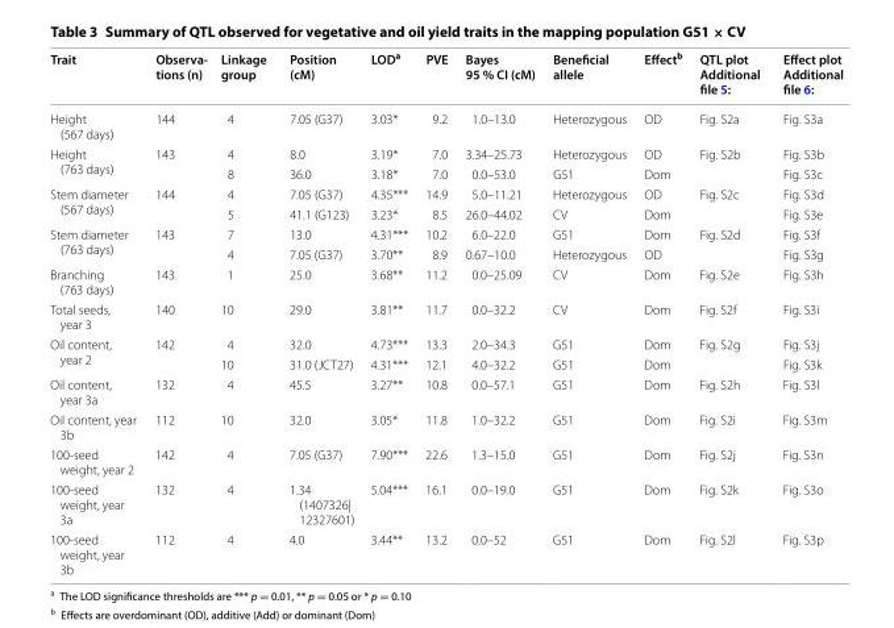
<table><thead><tr><td>Trait</td><td>Observa- tions (n)</td><td>Linkage group</td><td>Position (cM)</td><td>LOD<sup>a</sup></td><td>PVE</td><td>Bayes 95 % CI (cM)</td><td>Beneficial allele</td><td>Effect<sup>b</sup></td><td>QTL plot Additional file 5:</td><td>Effect plot Additional file 6:</td></tr></thead><tbody><tr><td>Height (567 days)</td><td>144</td><td>4</td><td>7.05 (G37)</td><td>3.03*</td><td>9.2</td><td>1.0–13.0</td><td>Heterozygous</td><td>OD</td><td>Fig. S2a</td><td>Fig. S3a</td></tr><tr><td rowspan="2">Height (763 days)</td><td rowspan="2">143</td><td>4</td><td>8.0</td><td>3.19*</td><td>7.0</td><td>3.34–25.73</td><td>Heterozygous</td><td>OD</td><td rowspan="2">Fig. S2b</td><td>Fig. S3b</td></tr><tr><td>8</td><td>36.0</td><td>3.18*</td><td>7.0</td><td>0.0–53.0</td><td>G51</td><td>Dom</td><td>Fig. S3c</td></tr><tr><td rowspan="2">Stem diameter (567 days)</td><td rowspan="2">144</td><td>4</td><td>7.05 (G37)</td><td>4.35***</td><td>14.9</td><td>5.0–11.21</td><td>Heterozygous</td><td>OD</td><td rowspan="2">Fig. S2c</td><td>Fig. S3d</td></tr><tr><td>5</td><td>41.1 (G123)</td><td>3.23*</td><td>8.5</td><td>26.0–44.02</td><td>CV</td><td>Dom</td><td>Fig. S3e</td></tr><tr><td rowspan="2">Stem diameter (763 days)</td><td rowspan="2">143</td><td>7</td><td>13.0</td><td>4.31***</td><td>10.2</td><td>6.0–22.0</td><td>G51</td><td>Dom</td><td rowspan="2">Fig. S2d</td><td>Fig. S3f</td></tr><tr><td>4</td><td>7.05 (G37)</td><td>3.70**</td><td>8.9</td><td>0.67–10.0</td><td>Heterozygous</td><td>OD</td><td>Fig. S3g</td></tr><tr><td>Branching (763 days)</td><td>143</td><td>1</td><td>25.0</td><td>3.68**</td><td>11.2</td><td>0.0–25.09</td><td>CV</td><td>Dom</td><td>Fig. S2e</td><td>Fig. S3h</td></tr><tr><td>Total seeds, year 3</td><td>140</td><td>10</td><td>29.0</td><td>3.81**</td><td>11.7</td><td>0.0–32.2</td><td>CV</td><td>Dom</td><td>Fig. S2f</td><td>Fig. S3i</td></tr><tr><td rowspan="2">Oil content, year 2</td><td rowspan="2">142</td><td>4</td><td>32.0</td><td>4.73***</td><td>13.3</td><td>2.0–34.3</td><td>G51</td><td>Dom</td><td rowspan="2">Fig. S2g</td><td>Fig. S3j</td></tr><tr><td>10</td><td>31.0 (JCT27)</td><td>4.31***</td><td>12.1</td><td>4.0–32.2</td><td>G51</td><td>Dom</td><td>Fig. S3k</td></tr><tr><td>Oil content, year 3a</td><td>132</td><td>4</td><td>45.5</td><td>3.27**</td><td>10.8</td><td>0.0–57.1</td><td>G51</td><td>Dom</td><td>Fig. S2h</td><td>Fig. S3l</td></tr><tr><td>Oil content, year 3b</td><td>112</td><td>10</td><td>32.0</td><td>3.05*</td><td>11.8</td><td>1.0–32.2</td><td>G51</td><td>Dom</td><td>Fig. S2i</td><td>Fig. S3m</td></tr><tr><td>100-seed weight, year 2</td><td>142</td><td>4</td><td>7.05 (G37)</td><td>7.90***</td><td>22.6</td><td>1.3–15.0</td><td>G51</td><td>Dom</td><td>Fig. S2j</td><td>Fig. S3n</td></tr><tr><td>100-seed weight, year 3a</td><td>132</td><td>4</td><td>1.34 (1407326| 12327601)</td><td>5.04***</td><td>16.1</td><td>0.0–19.0</td><td>G51</td><td>Dom</td><td>Fig. S2k</td><td>Fig. S3o</td></tr><tr><td>100-seed weight, year 3b</td><td>112</td><td>4</td><td>4.0</td><td>3.44**</td><td>13.2</td><td>0.0–52</td><td>G51</td><td>Dom</td><td>Fig. S2l</td><td>Fig. S3p</td></tr></tbody></table>